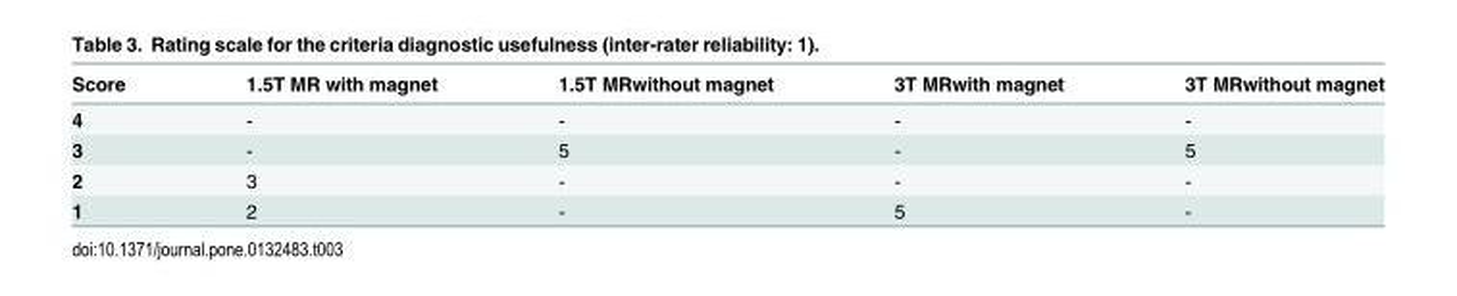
<table><thead><tr><td>Score</td><td>1.5T MR with magnet</td><td>1.5T MRwithout magnet</td><td>3T MRwith magnet</td><td>3T MRwithout magnet</td></tr></thead><tbody><tr><td>4</td><td>-</td><td>-</td><td>-</td><td>-</td></tr><tr><td>3</td><td>-</td><td>5</td><td>-</td><td>5</td></tr><tr><td>2</td><td>3</td><td>-</td><td>-</td><td>-</td></tr><tr><td>1</td><td>2</td><td>-</td><td>5</td><td>-</td></tr></tbody></table>